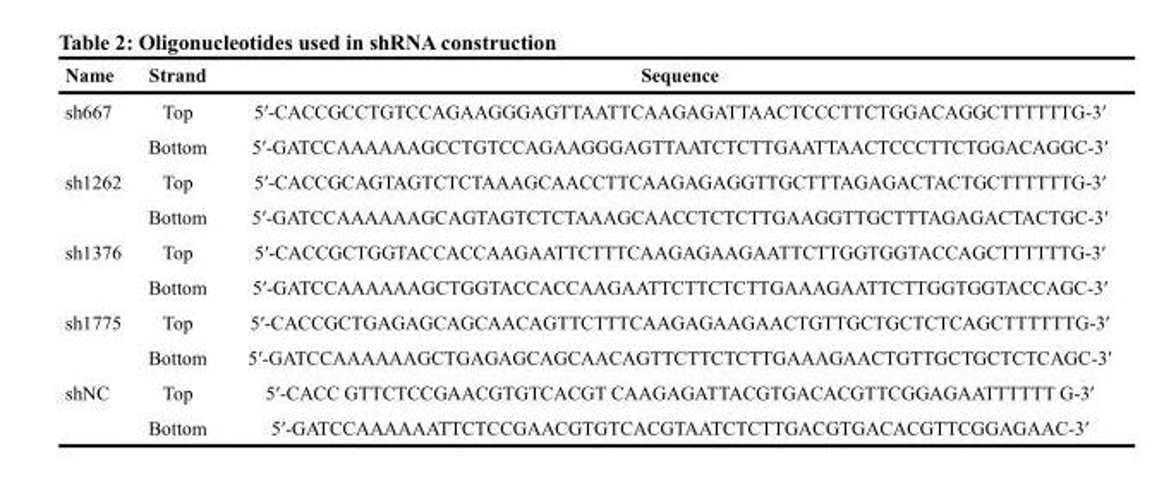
<table><thead><tr><td>Name</td><td>Strand</td><td>Sequence</td></tr></thead><tbody><tr><td rowspan="2">sh667</td><td>Top</td><td>5′-CACCGCCTGTCCAGAAGGGAGTTAATTCAAGAGATTAACTCCCTTCTGGACAGGCTTTTTTG-3′</td></tr><tr><td>Bottom</td><td>5′-GATCCAAAAAAGCCTGTCCAGAAGGGAGTTAATCTCTTGAATTAACTCCCTTCTGGACAGGC-3′</td></tr><tr><td rowspan="2">sh1262</td><td>Top</td><td>5′-CACCGCAGTAGTCTCTAAAGCAACCTTCAAGAGAGGTTGCTTTAGAGACTACTGCTTTTTTG-3′</td></tr><tr><td>Bottom</td><td>5′-GATCCAAAAAAGCAGTAGTCTCTAAAGCAACCTCTCTTGAAGGTTGCTTTAGAGACTACTGC-3′</td></tr><tr><td rowspan="2">sh1376</td><td>Top</td><td>5′-CACCGCTGGTACCACCAAGAATTCTTTCAAGAGAAGAATTCTTGGTGGTACCAGCTTTTTTG-3′</td></tr><tr><td>Bottom</td><td>5′-GATCCAAAAAAGCTGGTACCACCAAGAATTCTTCTCTTGAAAGAATTCTTGGTGGTACCAGC-3′</td></tr><tr><td rowspan="2">sh1775</td><td>Top</td><td>5′-CACCGCTGAGAGCAGCAACAGTTCTTTCAAGAGAAGAACTGTTGCTGCTCTCAGCTTTTTTG-3′</td></tr><tr><td>Bottom</td><td>5′-GATCCAAAAAAGCTGAGAGCAGCAACAGTTCTTCTCTTGAAAGAACTGTTGCTGCTCTCAGC-3′</td></tr><tr><td rowspan="2">shNC</td><td>Top</td><td>5′-CACC GTTCTCCGAACGTGTCACGT CAAGAGATTACGTGACACGTTCGGAGAATTTTTT G-3′</td></tr><tr><td>Bottom</td><td>5′-GATCCAAAAAATTCTCCGAACGTGTCACGTAATCTCTTGACGTGACACGTTCGGAGAAC-3′</td></tr></tbody></table>